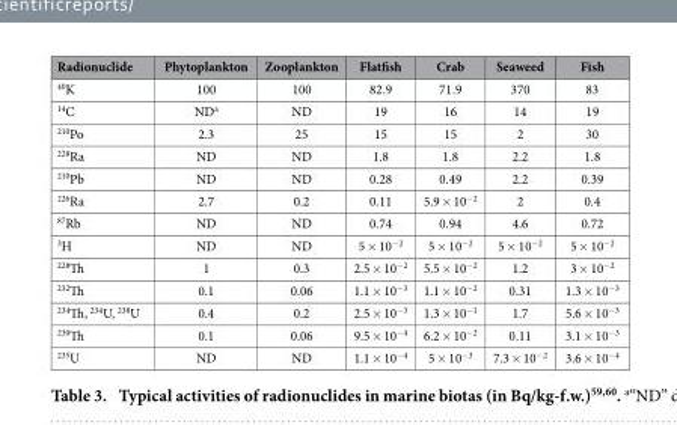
<table><thead><tr><td>Radionuclide</td><td>Phytoplankton</td><td>Zooplankton</td><td>Flatfish</td><td>Crab</td><td>Seaweed</td><td>Fish</td></tr></thead><tbody><tr><td><sup>40</sup>K</td><td>100</td><td>100</td><td>82.9</td><td>71.9</td><td>370</td><td>83</td></tr><tr><td><sup>14</sup>C</td><td>ND<sup>a</sup></td><td>ND</td><td>19</td><td>16</td><td>14</td><td>19</td></tr><tr><td><sup>210</sup>Po</td><td>2.3</td><td>25</td><td>15</td><td>15</td><td>2</td><td>30</td></tr><tr><td><sup>228</sup>Ra</td><td>ND</td><td>ND</td><td>1.8</td><td>1.8</td><td>2.2</td><td>1.8</td></tr><tr><td><sup>210</sup>Pb</td><td>ND</td><td>ND</td><td>0.28</td><td>0.49</td><td>2.2</td><td>0.39</td></tr><tr><td><sup>226</sup>Ra</td><td>2.7</td><td>0.2</td><td>0.11</td><td>5.9 × 10<sup>−2</sup></td><td>2</td><td>0.4</td></tr><tr><td><sup>87</sup>Rb</td><td>ND</td><td>ND</td><td>0.74</td><td>0.94</td><td>4.6</td><td>0.72</td></tr><tr><td><sup>3</sup>H</td><td>ND</td><td>ND</td><td>5 × 10<sup>−2</sup></td><td>5 × 10<sup>−2</sup></td><td>5 × 10<sup>−2</sup></td><td>5 × 10<sup>−2</sup></td></tr><tr><td><sup>228</sup>Th</td><td>1</td><td>0.3</td><td>2.5 × 10<sup>−2</sup></td><td>5.5 × 10<sup>−2</sup></td><td>1.2</td><td>3 × 10<sup>−2</sup></td></tr><tr><td><sup>232</sup>Th</td><td>0.1</td><td>0.06</td><td>1.1 × 10<sup>−3</sup></td><td>1.1 × 10<sup>−2</sup></td><td>0.31</td><td>1.3 × 10<sup>−3</sup></td></tr><tr><td><sup>234</sup>Th, <sup>234</sup>U, <sup>238</sup>U</td><td>0.4</td><td>0.2</td><td>2.5 × 10<sup>−3</sup></td><td>1.3 × 10<sup>−1</sup></td><td>1.7</td><td>5.6 × 10<sup>−3</sup></td></tr><tr><td><sup>230</sup>Th</td><td>0.1</td><td>0.06</td><td>9.5 × 10<sup>−4</sup></td><td>6.2 × 10<sup>−2</sup></td><td>0.11</td><td>3.1 × 10<sup>−3</sup></td></tr><tr><td><sup>235</sup>U</td><td>ND</td><td>ND</td><td>1.1 × 10<sup>−4</sup></td><td>5 × 10<sup>−3</sup></td><td>7.3 × 10<sup>−2</sup></td><td>3.6 × 10<sup>−4</sup></td></tr></tbody></table>